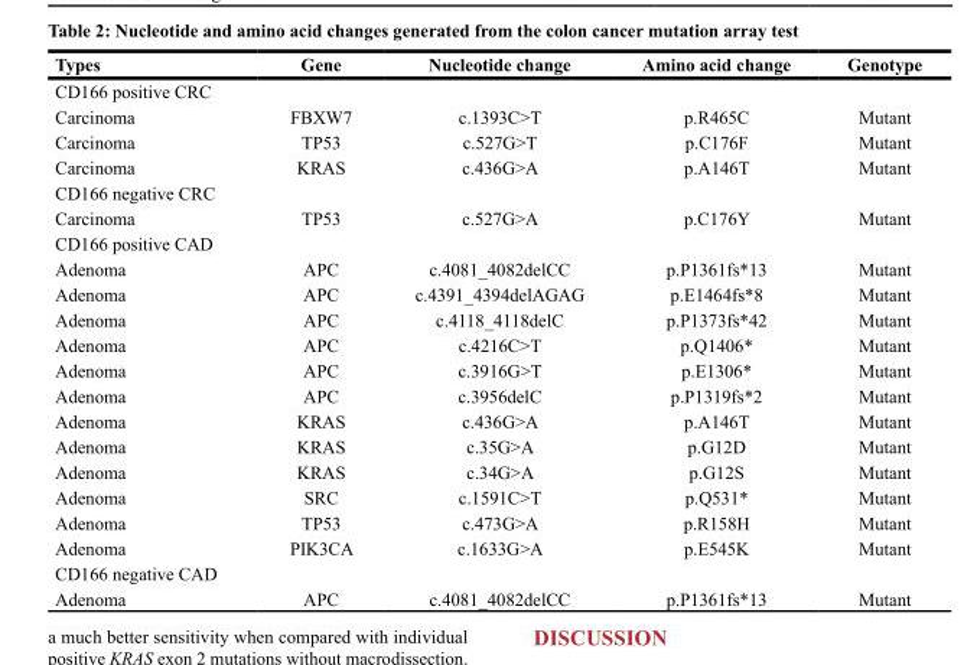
<table><thead><tr><td>Types</td><td>Gene</td><td>Nucleotide change</td><td>Amino acid change</td><td>Genotype</td></tr></thead><tbody><tr><td colspan="5">CD166 positive CRC</td></tr><tr><td>Carcinoma</td><td>FBXW7</td><td>c.1393C&gt;T</td><td>p.R465C</td><td>Mutant</td></tr><tr><td>Carcinoma</td><td>TP53</td><td>c.527G&gt;T</td><td>p.C176F</td><td>Mutant</td></tr><tr><td>Carcinoma</td><td>KRAS</td><td>c.436G&gt;A</td><td>p.A146T</td><td>Mutant</td></tr><tr><td colspan="5">CD166 negative CRC</td></tr><tr><td>Carcinoma</td><td>TP53</td><td>c.527G&gt;A</td><td>p.C176Y</td><td>Mutant</td></tr><tr><td colspan="5">CD166 positive CAD</td></tr><tr><td>Adenoma</td><td>APC</td><td>c.4081_4082delCC</td><td>p.P1361fs*13</td><td>Mutant</td></tr><tr><td>Adenoma</td><td>APC</td><td>c.4391_4394delAGAG</td><td>p.E1464fs*8</td><td>Mutant</td></tr><tr><td>Adenoma</td><td>APC</td><td>c.4118_4118delC</td><td>p.P1373fs*42</td><td>Mutant</td></tr><tr><td>Adenoma</td><td>APC</td><td>c.4216C&gt;T</td><td>p.Q1406*</td><td>Mutant</td></tr><tr><td>Adenoma</td><td>APC</td><td>c.3916G&gt;T</td><td>p.E1306*</td><td>Mutant</td></tr><tr><td>Adenoma</td><td>APC</td><td>c.3956delC</td><td>p.P1319fs*2</td><td>Mutant</td></tr><tr><td>Adenoma</td><td>KRAS</td><td>c.436G&gt;A</td><td>p.A146T</td><td>Mutant</td></tr><tr><td>Adenoma</td><td>KRAS</td><td>c.35G&gt;A</td><td>p.G12D</td><td>Mutant</td></tr><tr><td>Adenoma</td><td>KRAS</td><td>c.34G&gt;A</td><td>p.G12S</td><td>Mutant</td></tr><tr><td>Adenoma</td><td>SRC</td><td>c.1591C&gt;T</td><td>p.Q531*</td><td>Mutant</td></tr><tr><td>Adenoma</td><td>TP53</td><td>c.473G&gt;A</td><td>p.R158H</td><td>Mutant</td></tr><tr><td>Adenoma</td><td>PIK3CA</td><td>c.1633G&gt;A</td><td>p.E545K</td><td>Mutant</td></tr><tr><td colspan="5">CD166 negative CAD</td></tr><tr><td>Adenoma</td><td>APC</td><td>c.4081_4082delCC</td><td>p.P1361fs*13</td><td>Mutant</td></tr></tbody></table>